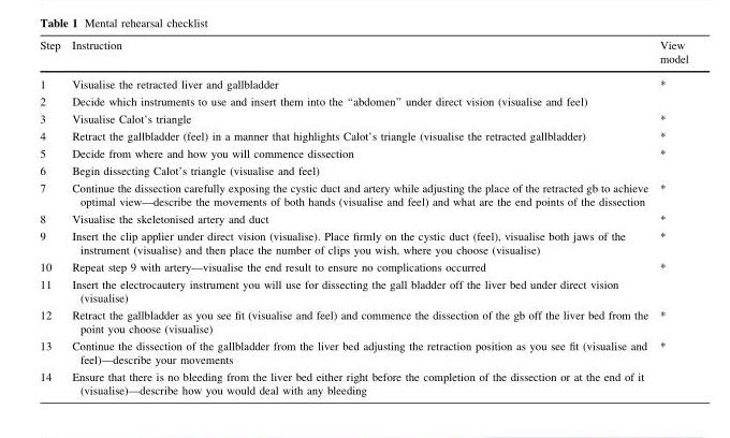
<table><thead><tr><td>Step</td><td>Instruction</td><td>View model</td></tr></thead><tbody><tr><td>1</td><td>Visualise the retracted liver and gallbladder</td><td>*</td></tr><tr><td>2</td><td>Decide which instruments to use and insert them into the ‘‘abdomen’’ under direct vision (visualise and feel)</td><td></td></tr><tr><td>3</td><td>Visualise Calot’s triangle</td><td>*</td></tr><tr><td>4</td><td>Retract the gallbladder (feel) in a manner that highlights Calot’s triangle (visualise the retracted gallbladder)</td><td>*</td></tr><tr><td>5</td><td>Decide from where and how you will commence dissection</td><td>*</td></tr><tr><td>6</td><td>Begin dissecting Calot’s triangle (visualise and feel)</td><td></td></tr><tr><td>7</td><td>Continue the dissection carefully exposing the cystic duct and artery while adjusting the place of the retracted gb to achieve optimal view—describe the movements of both hands (visualise and feel) and what are the end points of the dissection</td><td>*</td></tr><tr><td>8</td><td>Visualise the skeletonised artery and duct</td><td>*</td></tr><tr><td>9</td><td>Insert the clip applier under direct vision (visualise). Place firmly on the cystic duct (feel), visualise both jaws of the instrument (visualise) and then place the number of clips you wish, where you choose (visualise)</td><td>*</td></tr><tr><td>10</td><td>Repeat step 9 with artery—visualise the end result to ensure no complications occurred</td><td>*</td></tr><tr><td>11</td><td>Insert the electrocautery instrument you will use for dissecting the gall bladder off the liver bed under direct vision (visualise)</td><td></td></tr><tr><td>12</td><td>Retract the gallbladder as you see fit (visualise and feel) and commence the dissection of the gb off the liver bed from the point you choose (visualise)</td><td>*</td></tr><tr><td>13</td><td>Continue the dissection of the gallbladder from the liver bed adjusting the retraction position as you see fit (visualise and feel)—describe your movements</td><td>*</td></tr><tr><td>14</td><td>Ensure that there is no bleeding from the liver bed either right before the completion of the dissection or at the end of it (visualise)—describe how you would deal with any bleeding</td><td></td></tr></tbody></table>